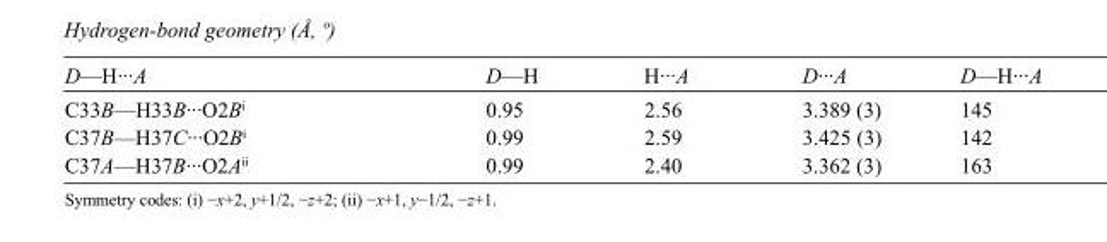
<table><tbody><tr><td>D—H···A</td><td>D—H</td><td>H···A</td><td>D···A</td><td>D—H···A</td></tr><tr><td>C33B—H33B···O2B<sup>i</sup></td><td>0.95</td><td>2.56</td><td>3.389 (3)</td><td>145</td></tr><tr><td>C37B—H37C···O2B<sup>i</sup></td><td>0.99</td><td>2.59</td><td>3.425 (3)</td><td>142</td></tr><tr><td>C37A—H37B···O2A<sup>ii</sup></td><td>0.99</td><td>2.40</td><td>3.362 (3)</td><td>163</td></tr></tbody></table>